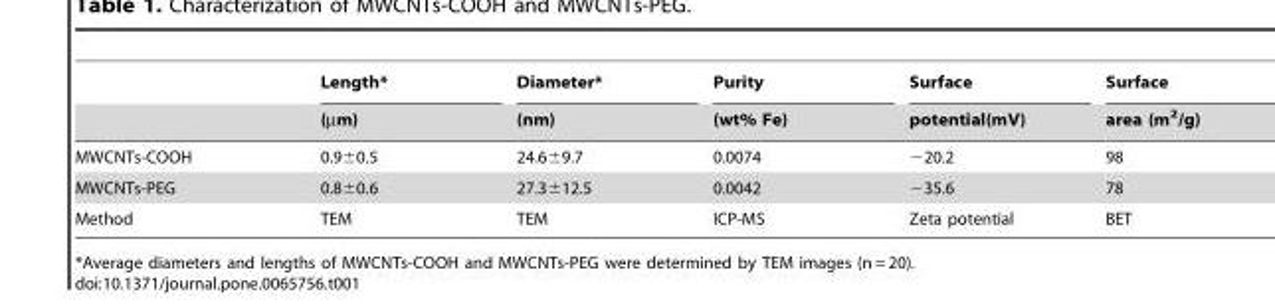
<table><thead><tr><td rowspan="2"></td><td rowspan="2">Length* (µm)</td><td rowspan="2">Diameter* (nm)</td><td rowspan="2">Purity (wt% Fe)</td><td rowspan="2">Surface potential(mV)</td><td rowspan="2">Surface area (m<sup>2</sup>/g)</td></tr><tr></tr></thead><tbody><tr><td>MWCNTs-COOH</td><td>0.9±0.5</td><td>24.6±9.7</td><td>0.0074</td><td>−20.2</td><td>98</td></tr><tr><td>MWCNTs-PEG</td><td>0.8±0.6</td><td>27.3±12.5</td><td>0.0042</td><td>−35.6</td><td>78</td></tr><tr><td>Method</td><td>TEM</td><td>TEM</td><td>ICP-MS</td><td>Zeta potential</td><td>BET</td></tr></tbody></table>